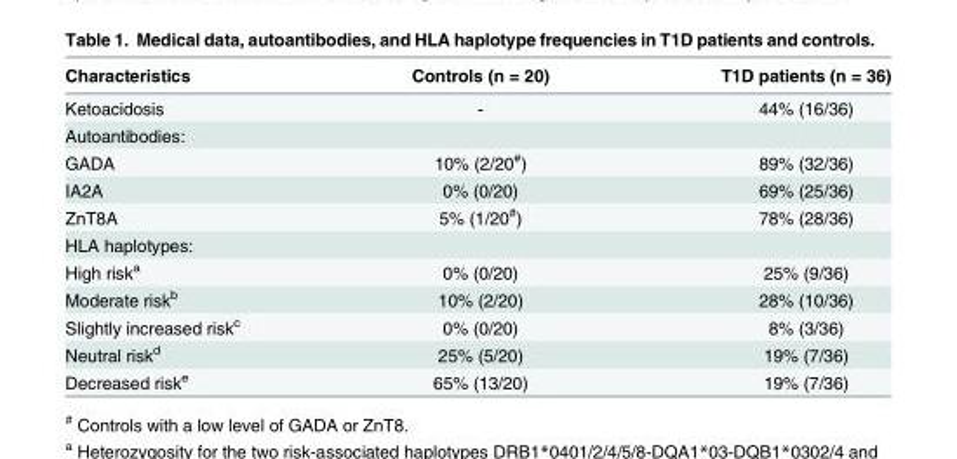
<table><thead><tr><td>Characteristics</td><td>Controls (n = 20)</td><td>T1D patients (n = 36)</td></tr></thead><tbody><tr><td>Ketoacidosis</td><td>-</td><td>44% (16/36)</td></tr><tr><td colspan="3">Autoantibodies:</td></tr><tr><td>GADA</td><td>10% (2/20<sup>#</sup>)</td><td>89% (32/36)</td></tr><tr><td>IA2A</td><td>0% (0/20)</td><td>69% (25/36)</td></tr><tr><td>ZnT8A</td><td>5% (1/20<sup>#</sup>)</td><td>78% (28/36)</td></tr><tr><td colspan="3">HLA haplotypes:</td></tr><tr><td>High risk<sup>a</sup></td><td>0% (0/20)</td><td>25% (9/36)</td></tr><tr><td>Moderate risk<sup>b</sup></td><td>10% (2/20)</td><td>28% (10/36)</td></tr><tr><td>Slightly increased risk<sup>c</sup></td><td>0% (0/20)</td><td>8% (3/36)</td></tr><tr><td>Neutral risk<sup>d</sup></td><td>25% (5/20)</td><td>19% (7/36)</td></tr><tr><td>Decreased risk<sup>e</sup></td><td>65% (13/20)</td><td>19% (7/36)</td></tr></tbody></table>